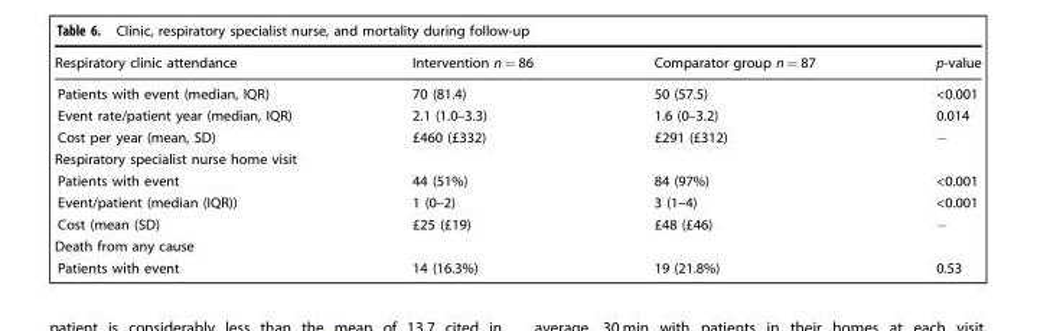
<table><thead><tr><td>Respiratory clinic attendance</td><td>Intervention n = 86</td><td>Comparator group n = 87</td><td>p-value</td></tr></thead><tbody><tr><td>Patients with event (median, IQR)</td><td>70 (81.4)</td><td>50 (57.5)</td><td>&lt;0.001</td></tr><tr><td>Event rate/patient year (median, IQR)</td><td>2.1 (1.0–3.3)</td><td>1.6 (0–3.2)</td><td>0.014</td></tr><tr><td>Cost per year (mean, SD)</td><td>£460 (£332)</td><td>£291 (£312)</td><td>−</td></tr><tr><td colspan="4">Respiratory specialist nurse home visit</td></tr><tr><td>Patients with event</td><td>44 (51%)</td><td>84 (97%)</td><td>&lt;0.001</td></tr><tr><td>Event/patient (median (IQR))</td><td>1 (0–2)</td><td>3 (1–4)</td><td>&lt;0.001</td></tr><tr><td>Cost (mean (SD)</td><td>£25 (£19)</td><td>£48 (£46)</td><td>−</td></tr><tr><td colspan="4">Death from any cause</td></tr><tr><td>Patients with event</td><td>14 (16.3%)</td><td>19 (21.8%)</td><td>0.53</td></tr></tbody></table>